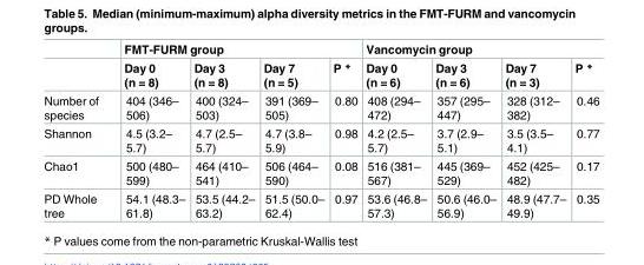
<table><thead><tr><td rowspan="2"></td><td colspan="4">FMT-FURM group</td><td colspan="4">Vancomycin group</td></tr><tr><td>Day 0 (n = 8)</td><td>Day 3 (n = 8)</td><td>Day 7 (n = 5)</td><td>P *</td><td>Day 0 (n = 6)</td><td>Day 3 (n = 6)</td><td>Day 7 (n = 3)</td><td>P *</td></tr></thead><tbody><tr><td>Number of species</td><td>404 (346– 506)</td><td>400 (324– 503)</td><td>391 (369– 505)</td><td>0.80</td><td>408 (294– 472)</td><td>357 (295– 447)</td><td>328 (312– 382)</td><td>0.46</td></tr><tr><td>Shannon</td><td>4.5 (3.2– 5.7)</td><td>4.7 (2.5– 5.7)</td><td>4.7 (3.8– 5.9)</td><td>0.98</td><td>4.2 (2.5– 5.7)</td><td>3.7 (2.9– 5.1)</td><td>3.5 (3.5– 4.1)</td><td>0.77</td></tr><tr><td>Chao1</td><td>500 (480– 599)</td><td>464 (410– 541)</td><td>506 (464– 590)</td><td>0.08</td><td>516 (381– 567)</td><td>445 (369– 529)</td><td>452 (425– 482)</td><td>0.17</td></tr><tr><td>PD Whole tree</td><td>54.1 (48.3– 61.8)</td><td>53.5 (44.2– 63.2)</td><td>51.5 (50.0– 62.4)</td><td>0.97</td><td>53.6 (46.8– 57.3)</td><td>50.6 (46.0– 56.9)</td><td>48.9 (47.7– 49.9)</td><td>0.35</td></tr></tbody></table>